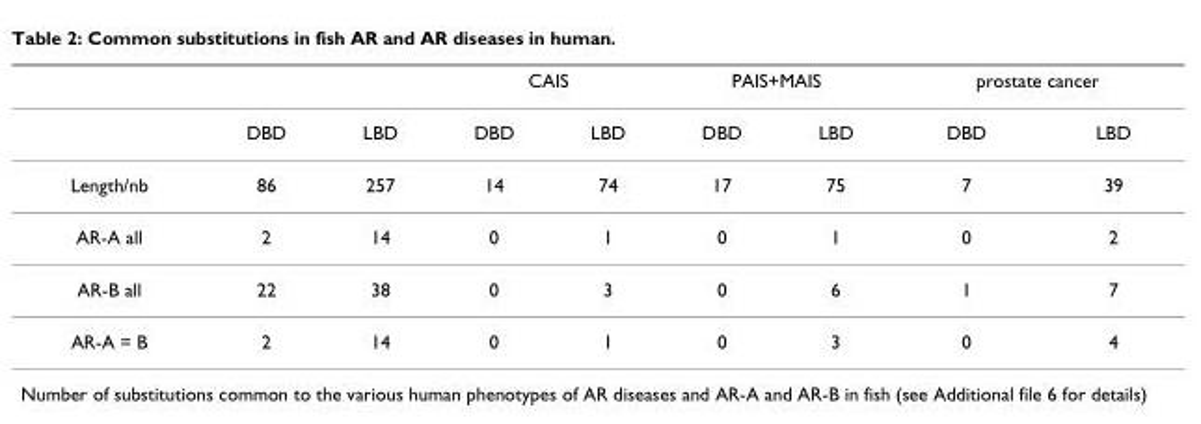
<table><thead><tr><td rowspan="2"></td><td rowspan="2">DBD</td><td rowspan="2">LBD</td><td colspan="2">CAIS</td><td colspan="2">PAIS+MAIS</td><td colspan="2">prostate cancer</td></tr><tr><td>DBD</td><td>LBD</td><td>DBD</td><td>LBD</td><td>DBD</td><td>LBD</td></tr></thead><tbody><tr><td>Length/nb</td><td>86</td><td>257</td><td>14</td><td>74</td><td>17</td><td>75</td><td>7</td><td>39</td></tr><tr><td>AR-A all</td><td>2</td><td>14</td><td>0</td><td>1</td><td>0</td><td>1</td><td>0</td><td>2</td></tr><tr><td>AR-B all</td><td>22</td><td>38</td><td>0</td><td>3</td><td>0</td><td>6</td><td>1</td><td>7</td></tr><tr><td>AR-A = B</td><td>2</td><td>14</td><td>0</td><td>1</td><td>0</td><td>3</td><td>0</td><td>4</td></tr></tbody></table>